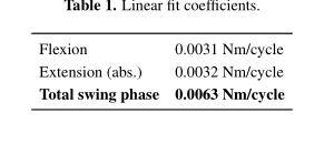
<table><tbody><tr><td>Flexion</td><td>0.0031 Nm/cycle</td></tr><tr><td>Extension (abs.)</td><td>0.0032 Nm/cycle</td></tr><tr><td>Total swing phase</td><td>0.0063 Nm/cycle</td></tr></tbody></table>